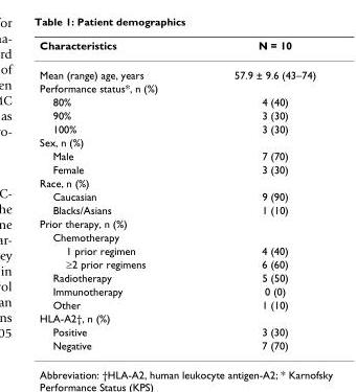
<table><thead><tr><td>Characteristics</td><td>N = 10</td></tr></thead><tbody><tr><td>Mean (range) age, years</td><td>57.9 ± 9.6 (43–74)</td></tr><tr><td colspan="2">Performance status*, n (%)</td></tr><tr><td>80%</td><td>4 (40)</td></tr><tr><td>90%</td><td>3 (30)</td></tr><tr><td>100%</td><td>3 (30)</td></tr><tr><td colspan="2">Sex, n (%)</td></tr><tr><td>Male</td><td>7 (70)</td></tr><tr><td>Female</td><td>3 (30)</td></tr><tr><td colspan="2">Race, n (%)</td></tr><tr><td>Caucasian</td><td>9 (90)</td></tr><tr><td>Blacks/Asians</td><td>1 (10)</td></tr><tr><td colspan="2">Prior therapy, n (%)</td></tr><tr><td colspan="2">Chemotherapy</td></tr><tr><td>1 prior regimen</td><td>4 (40)</td></tr><tr><td>≥2 prior regimens</td><td>6 (60)</td></tr><tr><td>Radiotherapy</td><td>5 (50)</td></tr><tr><td>Immunotherapy</td><td>0 (0)</td></tr><tr><td>Other</td><td>1 (10)</td></tr><tr><td colspan="2">HLA-A2†, n (%)</td></tr><tr><td>Positive</td><td>3 (30)</td></tr><tr><td>Negative</td><td>7 (70)</td></tr></tbody></table>